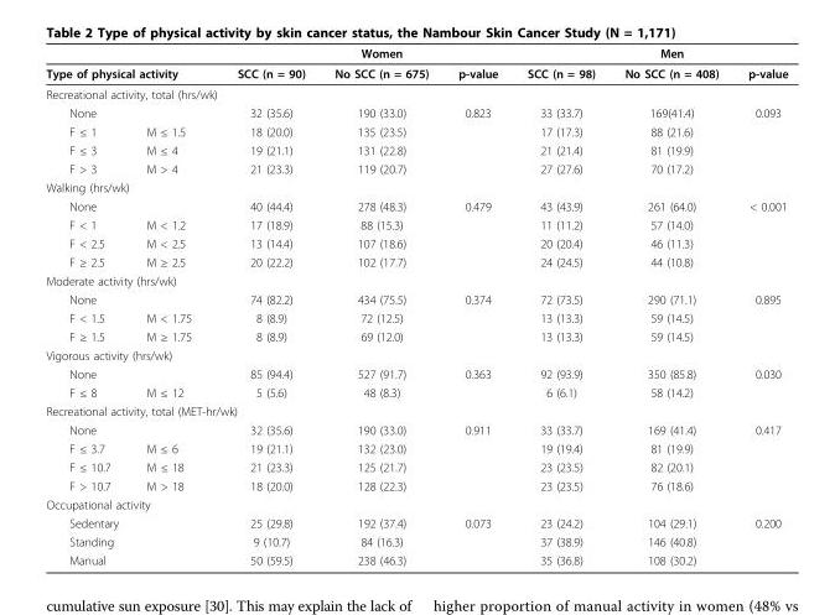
<table><thead><tr><td></td><td></td><td></td><td>Women</td><td></td><td></td><td>Men</td><td></td></tr></thead><tbody><tr><td colspan="2">Type of physical activity</td><td>SCC (n = 90)</td><td>No SCC (n = 675)</td><td>p-value</td><td>SCC (n = 98)</td><td>No SCC (n = 408)</td><td>p-value</td></tr><tr><td colspan="8">Recreational activity, total (hrs/wk)</td></tr><tr><td colspan="2">None</td><td>32 (35.6)</td><td>190 (33.0)</td><td>0.823</td><td>33 (33.7)</td><td>169(41.4)</td><td>0.093</td></tr><tr><td>F ≤ 1</td><td>M ≤ 1.5</td><td>18 (20.0)</td><td>135 (23.5)</td><td></td><td>17 (17.3)</td><td>88 (21.6)</td><td></td></tr><tr><td>F ≤ 3</td><td>M ≤ 4</td><td>19 (21.1)</td><td>131 (22.8)</td><td></td><td>21 (21.4)</td><td>81 (19.9)</td><td></td></tr><tr><td>F &gt; 3</td><td>M &gt; 4</td><td>21 (23.3)</td><td>119 (20.7)</td><td></td><td>27 (27.6)</td><td>70 (17.2)</td><td></td></tr><tr><td colspan="8">Walking (hrs/wk)</td></tr><tr><td colspan="2">None</td><td>40 (44.4)</td><td>278 (48.3)</td><td>0.479</td><td>43 (43.9)</td><td>261 (64.0)</td><td>&lt; 0.001</td></tr><tr><td>F &lt; 1</td><td>M &lt; 1.2</td><td>17 (18.9)</td><td>88 (15.3)</td><td></td><td>11 (11.2)</td><td>57 (14.0)</td><td></td></tr><tr><td>F &lt; 2.5</td><td>M &lt; 2.5</td><td>13 (14.4)</td><td>107 (18.6)</td><td></td><td>20 (20.4)</td><td>46 (11.3)</td><td></td></tr><tr><td>F ≥ 2.5</td><td>M ≥ 2.5</td><td>20 (22.2)</td><td>102 (17.7)</td><td></td><td>24 (24.5)</td><td>44 (10.8)</td><td></td></tr><tr><td colspan="8">Moderate activity (hrs/wk)</td></tr><tr><td colspan="2">None</td><td>74 (82.2)</td><td>434 (75.5)</td><td>0.374</td><td>72 (73.5)</td><td>290 (71.1)</td><td>0.895</td></tr><tr><td>F &lt; 1.5</td><td>M &lt; 1.75</td><td>8 (8.9)</td><td>72 (12.5)</td><td></td><td>13 (13.3)</td><td>59 (14.5)</td><td></td></tr><tr><td>F ≥ 1.5</td><td>M ≥ 1.75</td><td>8 (8.9)</td><td>69 (12.0)</td><td></td><td>13 (13.3)</td><td>59 (14.5)</td><td></td></tr><tr><td colspan="8">Vigorous activity (hrs/wk)</td></tr><tr><td colspan="2">None</td><td>85 (94.4)</td><td>527 (91.7)</td><td>0.363</td><td>92 (93.9)</td><td>350 (85.8)</td><td>0.030</td></tr><tr><td>F ≤ 8</td><td>M ≤ 12</td><td>5 (5.6)</td><td>48 (8.3)</td><td></td><td>6 (6.1)</td><td>58 (14.2)</td><td></td></tr><tr><td colspan="8">Recreational activity, total (MET-hr/wk)</td></tr><tr><td colspan="2">None</td><td>32 (35.6)</td><td>190 (33.0)</td><td>0.911</td><td>33 (33.7)</td><td>169 (41.4)</td><td>0.417</td></tr><tr><td>F ≤ 3.7</td><td>M ≤ 6</td><td>19 (21.1)</td><td>132 (23.0)</td><td></td><td>19 (19.4)</td><td>81 (19.9)</td><td></td></tr><tr><td>F ≤ 10.7</td><td>M ≤ 18</td><td>21 (23.3)</td><td>125 (21.7)</td><td></td><td>23 (23.5)</td><td>82 (20.1)</td><td></td></tr><tr><td>F &gt; 10.7</td><td>M &gt; 18</td><td>18 (20.0)</td><td>128 (22.3)</td><td></td><td>23 (23.5)</td><td>76 (18.6)</td><td></td></tr><tr><td colspan="8">Occupational activity</td></tr><tr><td colspan="2">Sedentary</td><td>25 (29.8)</td><td>192 (37.4)</td><td>0.073</td><td>23 (24.2)</td><td>104 (29.1)</td><td>0.200</td></tr><tr><td colspan="2">Standing</td><td>9 (10.7)</td><td>84 (16.3)</td><td></td><td>37 (38.9)</td><td>146 (40.8)</td><td></td></tr><tr><td colspan="2">Manual</td><td>50 (59.5)</td><td>238 (46.3)</td><td></td><td>35 (36.8)</td><td>108 (30.2)</td><td></td></tr></tbody></table>